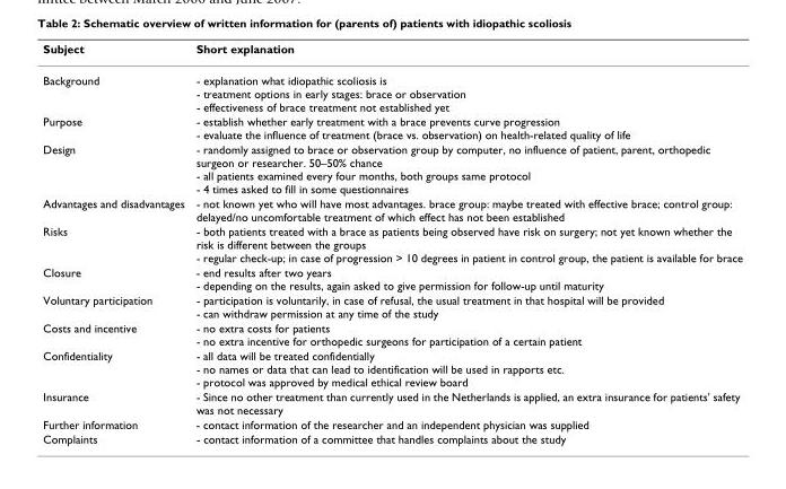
<table><thead><tr><td>Subject</td><td>Short explanation</td></tr></thead><tbody><tr><td>Background</td><td>- explanation what idiopathic scoliosis is - treatment options in early stages: brace or observation - effectiveness of brace treatment not established yet</td></tr><tr><td>Purpose</td><td>- establish whether early treatment with a brace prevents curve progression - evaluate the influence of treatment (brace vs. observation) on health-related quality of life</td></tr><tr><td>Design</td><td>- randomly assigned to brace or observation group by computer, no influence of patient, parent, orthopedic surgeon or researcher. 50–50% chance - all patients examined every four months, both groups same protocol - 4 times asked to fill in some questionnaires</td></tr><tr><td>Advantages and disadvantages</td><td>- not known yet who will have most advantages. brace group: maybe treated with effective brace; control group: delayed/no uncomfortable treatment of which effect has not been established</td></tr><tr><td>Risks</td><td>- both patients treated with a brace as patients being observed have risk on surgery; not yet known whether the risk is different between the groups - regular check-up; in case of progression &gt; 10 degrees in patient in control group, the patient is available for brace</td></tr><tr><td>Closure</td><td>- end results after two years - depending on the results, again asked to give permission for follow-up until maturity</td></tr><tr><td>Voluntary participation</td><td>- participation is voluntarily, in case of refusal, the usual treatment in that hospital will be provided - can withdraw permission at any time of the study</td></tr><tr><td>Costs and incentive</td><td>- no extra costs for patients - no extra incentive for orthopedic surgeons for participation of a certain patient</td></tr><tr><td>Confidentiality</td><td>- all data will be treated confidentially - no names or data that can lead to identification will be used in rapports etc. - protocol was approved by medical ethical review board</td></tr><tr><td>Insurance</td><td>- Since no other treatment than currently used in the Netherlands is applied, an extra insurance for patients&#x27; safety was not necessary</td></tr><tr><td>Further information</td><td>- contact information of the researcher and an independent physician was supplied</td></tr><tr><td>Complaints</td><td>- contact information of a committee that handles complaints about the study</td></tr></tbody></table>